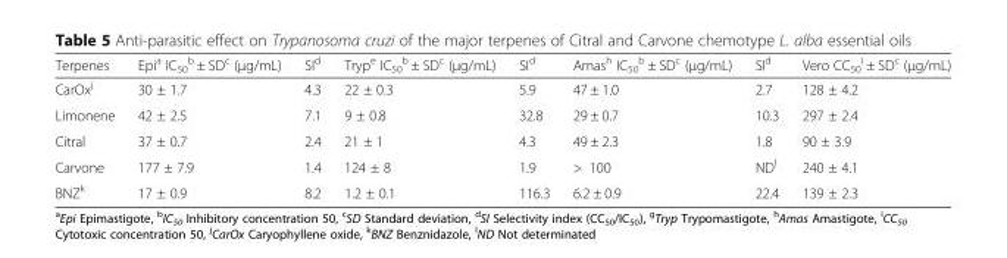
<table><thead><tr><td>Terpenes</td><td>Epi<sup>a</sup> IC<sub>50</sub> <sup>b</sup> ± SD<sup>c</sup> (μg/mL)</td><td>SI<sup>d</sup></td><td>Tryp<sup>e</sup> IC<sub>50</sub> <sup>b</sup> ± SD<sup>c</sup> (μg/mL)</td><td>SI<sup>d</sup></td><td>Amas<sup>h</sup> IC<sub>50</sub> <sup>b</sup> ± SD<sup>c</sup> (μg/mL)</td><td>SI<sup>d</sup></td><td>Vero CC<sub>50</sub> <sup>i</sup> ± SD<sup>c</sup> (μg/mL)</td></tr></thead><tbody><tr><td>CarOx<sup>j</sup></td><td>30 ± 1.7</td><td>4.3</td><td>22 ± 0.3</td><td>5.9</td><td>47 ± 1.0</td><td>2.7</td><td>128 ± 4.2</td></tr><tr><td>Limonene</td><td>42 ± 2.5</td><td>7.1</td><td>9 ± 0.8</td><td>32.8</td><td>29 ± 0.7</td><td>10.3</td><td>297 ± 2.4</td></tr><tr><td>Citral</td><td>37 ± 0.7</td><td>2.4</td><td>21 ± 1</td><td>4.3</td><td>49 ± 2.3</td><td>1.8</td><td>90 ± 3.9</td></tr><tr><td>Carvone</td><td>177 ± 7.9</td><td>1.4</td><td>124 ± 8</td><td>1.9</td><td>&gt; 100</td><td>ND<sup>l</sup></td><td>240 ± 4.1</td></tr><tr><td>BNZ<sup>k</sup></td><td>17 ± 0.9</td><td>8.2</td><td>1.2 ± 0.1</td><td>116.3</td><td>6.2 ± 0.9</td><td>22.4</td><td>139 ± 2.3</td></tr></tbody></table>